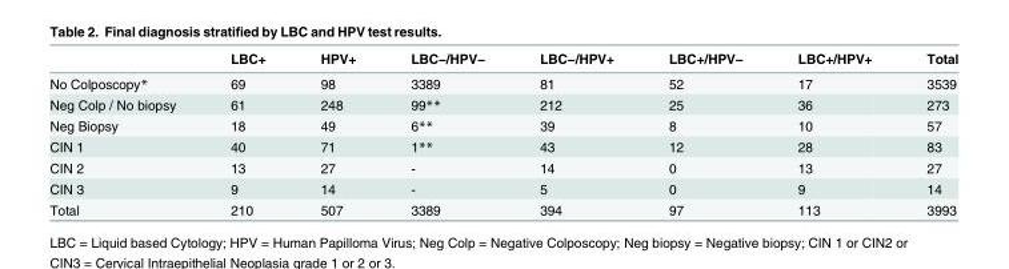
<table><thead><tr><td></td><td>LBC+</td><td>HPV+</td><td>LBC−/HPV−</td><td>LBC−/HPV+</td><td>LBC+/HPV−</td><td>LBC+/HPV+</td><td>Total</td></tr></thead><tbody><tr><td>No Colposcopy*</td><td>69</td><td>98</td><td>3389</td><td>81</td><td>52</td><td>17</td><td>3539</td></tr><tr><td>Neg Colp / No biopsy</td><td>61</td><td>248</td><td>99**</td><td>212</td><td>25</td><td>36</td><td>273</td></tr><tr><td>Neg Biopsy</td><td>18</td><td>49</td><td>6**</td><td>39</td><td>8</td><td>10</td><td>57</td></tr><tr><td>CIN 1</td><td>40</td><td>71</td><td>1**</td><td>43</td><td>12</td><td>28</td><td>83</td></tr><tr><td>CIN 2</td><td>13</td><td>27</td><td>-</td><td>14</td><td>0</td><td>13</td><td>27</td></tr><tr><td>CIN 3</td><td>9</td><td>14</td><td>-</td><td>5</td><td>0</td><td>9</td><td>14</td></tr><tr><td>Total</td><td>210</td><td>507</td><td>3389</td><td>394</td><td>97</td><td>113</td><td>3993</td></tr></tbody></table>